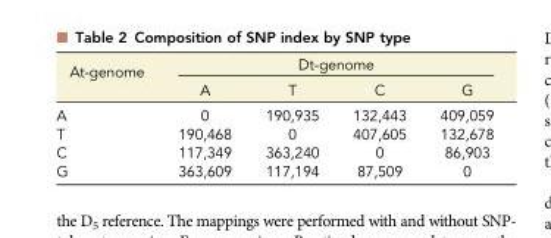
<table><thead><tr><td rowspan="2">At-genome</td><td colspan="4">Dt-genome</td></tr><tr><td>A</td><td>T</td><td>C</td><td>G</td></tr></thead><tbody><tr><td>A</td><td>0</td><td>190,935</td><td>132,443</td><td>409,059</td></tr><tr><td>T</td><td>190,468</td><td>0</td><td>407,605</td><td>132,678</td></tr><tr><td>C</td><td>117,349</td><td>363,240</td><td>0</td><td>86,903</td></tr><tr><td>G</td><td>363,609</td><td>117,194</td><td>87,509</td><td>0</td></tr></tbody></table>